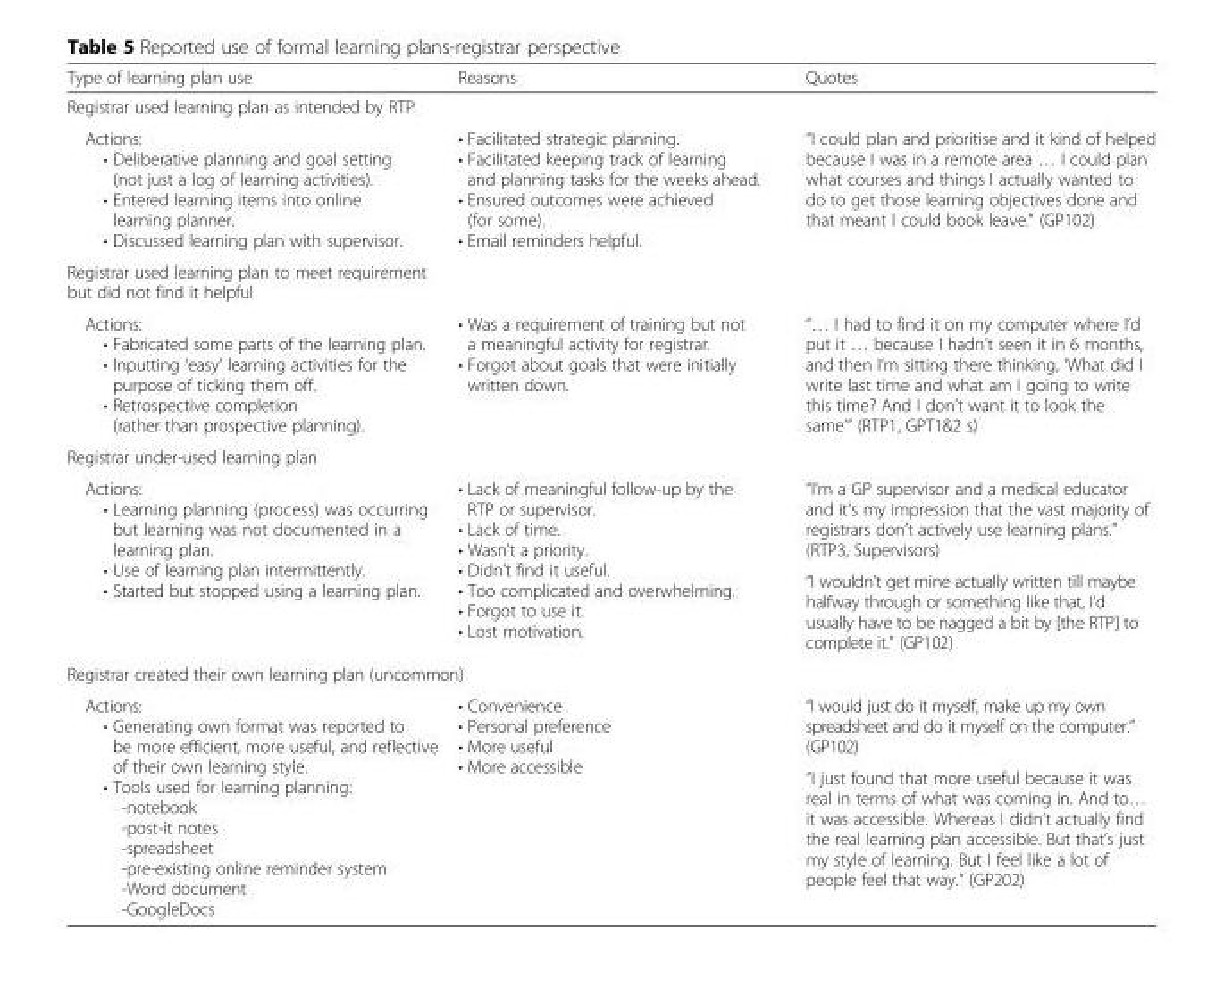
<table><thead><tr><td>Type of learning plan use</td><td>Reasons</td><td>Quotes</td></tr></thead><tbody><tr><td colspan="3">Registrar used learning plan as intended by RTP</td></tr><tr><td>Actions: • Deliberative planning and goal setting (not just a log of learning activities). • Entered learning items into online learning planner. • Discussed learning plan with supervisor.</td><td>• Facilitated strategic planning. • Facilitated keeping track of learning and planning tasks for the weeks ahead. • Ensured outcomes were achieved (for some). • Email reminders helpful.</td><td>“I could plan and prioritise and it kind of helped because I was in a remote area … I could plan what courses and things I actually wanted to do to get those learning objectives done and that meant I could book leave.” (GP102)</td></tr><tr><td colspan="3">Registrar used learning plan to meet requirement but did not find it helpful</td></tr><tr><td>Actions: • Fabricated some parts of the learning plan. • Inputting ‘easy’ learning activities for the purpose of ticking them off. • Retrospective completion (rather than prospective planning).</td><td>• Was a requirement of training but not a meaningful activity for registrar. • Forgot about goals that were initially written down.</td><td>“… I had to find it on my computer where I’d put it … because I hadn’t seen it in 6 months, and then I’m sitting there thinking, ‘What did I write last time and what am I going to write this time? And I don’t want it to look the same’” (RTP1, GPT1&amp;2 s)</td></tr><tr><td colspan="3">Registrar under-used learning plan</td></tr><tr><td rowspan="2">Actions: • Learning planning (process) was occurring but learning was not documented in a learning plan. • Use of learning plan intermittently. • Started but stopped using a learning plan.</td><td rowspan="2">• Lack of meaningful follow-up by the RTP or supervisor. • Lack of time. • Wasn’t a priority. • Didn’t find it useful. • Too complicated and overwhelming. • Forgot to use it. • Lost motivation.</td><td>“I’m a GP supervisor and a medical educator and it’s my impression that the vast majority of registrars don’t actively use learning plans.” (RTP3, Supervisors)</td></tr><tr><td>“I wouldn’t get mine actually written till maybe halfway through or something like that, I’d usually have to be nagged a bit by [the RTP] to complete it.” (GP102)</td></tr><tr><td colspan="3">Registrar created their own learning plan (uncommon)</td></tr><tr><td rowspan="2">Actions: • Generating own format was reported to be more efficient, more useful, and reflective of their own learning style. • Tools used for learning planning: -notebook -post-it notes -spreadsheet -pre-existing online reminder system -Word document -GoogleDocs</td><td rowspan="2">• Convenience • Personal preference • More useful • More accessible</td><td>“I would just do it myself, make up my own spreadsheet and do it myself on the computer.” (GP102)</td></tr><tr><td>“I just found that more useful because it was real in terms of what was coming in. And to… it was accessible. Whereas I didn’t actually find the real learning plan accessible. But that’s just my style of learning. But I feel like a lot of people feel that way.” (GP202)</td></tr></tbody></table>